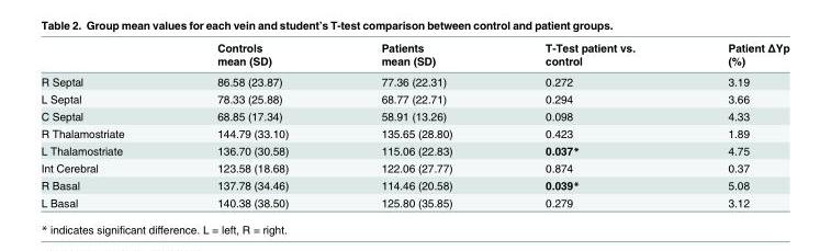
<table><thead><tr><td rowspan="2"></td><td rowspan="2">Controls mean (SD)</td><td rowspan="2">Patients mean (SD)</td><td rowspan="2">T-Test patient vs. control</td><td rowspan="2">Patient ΔYp (%)</td></tr><tr></tr></thead><tbody><tr><td>R Septal</td><td>86.58 (23.87)</td><td>77.36 (22.31)</td><td>0.272</td><td>3.19</td></tr><tr><td>L Septal</td><td>78.33 (25.88)</td><td>68.77 (22.71)</td><td>0.294</td><td>3.66</td></tr><tr><td>C Septal</td><td>68.85 (17.34)</td><td>58.91 (13.26)</td><td>0.098</td><td>4.33</td></tr><tr><td>R Thalamostriate</td><td>144.79 (33.10)</td><td>135.65 (28.80)</td><td>0.423</td><td>1.89</td></tr><tr><td>L Thalamostriate</td><td>136.70 (30.58)</td><td>115.06 (22.83)</td><td>0.037*</td><td>4.75</td></tr><tr><td>Int Cerebral</td><td>123.58 (18.68)</td><td>122.06 (27.77)</td><td>0.874</td><td>0.37</td></tr><tr><td>R Basal</td><td>137.78 (34.46)</td><td>114.46 (20.58)</td><td>0.039*</td><td>5.08</td></tr><tr><td>L Basal</td><td>140.38 (38.50)</td><td>125.80 (35.85)</td><td>0.279</td><td>3.12</td></tr></tbody></table>